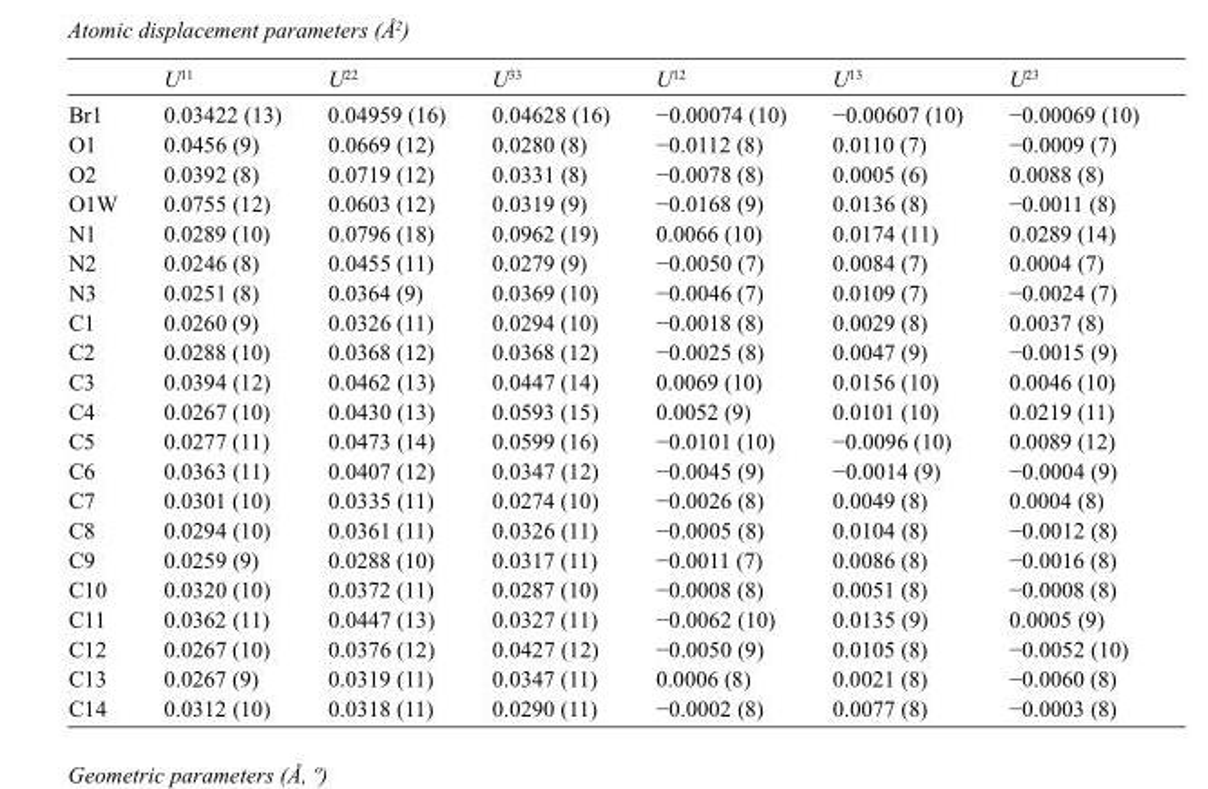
<table><thead><tr><td></td><td>U<sup>11</sup></td><td>U<sup>22</sup></td><td>U<sup>33</sup></td><td>U<sup>12</sup></td><td>U<sup>13</sup></td><td>U<sup>23</sup></td></tr></thead><tbody><tr><td>Br1</td><td>0.03422 (13)</td><td>0.04959 (16)</td><td>0.04628 (16)</td><td>−0.00074 (10)</td><td>−0.00607 (10)</td><td>−0.00069 (10)</td></tr><tr><td>O1</td><td>0.0456 (9)</td><td>0.0669 (12)</td><td>0.0280 (8)</td><td>−0.0112 (8)</td><td>0.0110 (7)</td><td>−0.0009 (7)</td></tr><tr><td>O2</td><td>0.0392 (8)</td><td>0.0719 (12)</td><td>0.0331 (8)</td><td>−0.0078 (8)</td><td>0.0005 (6)</td><td>0.0088 (8)</td></tr><tr><td>O1W</td><td>0.0755 (12)</td><td>0.0603 (12)</td><td>0.0319 (9)</td><td>−0.0168 (9)</td><td>0.0136 (8)</td><td>−0.0011 (8)</td></tr><tr><td>N1</td><td>0.0289 (10)</td><td>0.0796 (18)</td><td>0.0962 (19)</td><td>0.0066 (10)</td><td>0.0174 (11)</td><td>0.0289 (14)</td></tr><tr><td>N2</td><td>0.0246 (8)</td><td>0.0455 (11)</td><td>0.0279 (9)</td><td>−0.0050 (7)</td><td>0.0084 (7)</td><td>0.0004 (7)</td></tr><tr><td>N3</td><td>0.0251 (8)</td><td>0.0364 (9)</td><td>0.0369 (10)</td><td>−0.0046 (7)</td><td>0.0109 (7)</td><td>−0.0024 (7)</td></tr><tr><td>C1</td><td>0.0260 (9)</td><td>0.0326 (11)</td><td>0.0294 (10)</td><td>−0.0018 (8)</td><td>0.0029 (8)</td><td>0.0037 (8)</td></tr><tr><td>C2</td><td>0.0288 (10)</td><td>0.0368 (12)</td><td>0.0368 (12)</td><td>−0.0025 (8)</td><td>0.0047 (9)</td><td>−0.0015 (9)</td></tr><tr><td>C3</td><td>0.0394 (12)</td><td>0.0462 (13)</td><td>0.0447 (14)</td><td>0.0069 (10)</td><td>0.0156 (10)</td><td>0.0046 (10)</td></tr><tr><td>C4</td><td>0.0267 (10)</td><td>0.0430 (13)</td><td>0.0593 (15)</td><td>0.0052 (9)</td><td>0.0101 (10)</td><td>0.0219 (11)</td></tr><tr><td>C5</td><td>0.0277 (11)</td><td>0.0473 (14)</td><td>0.0599 (16)</td><td>−0.0101 (10)</td><td>−0.0096 (10)</td><td>0.0089 (12)</td></tr><tr><td>C6</td><td>0.0363 (11)</td><td>0.0407 (12)</td><td>0.0347 (12)</td><td>−0.0045 (9)</td><td>−0.0014 (9)</td><td>−0.0004 (9)</td></tr><tr><td>C7</td><td>0.0301 (10)</td><td>0.0335 (11)</td><td>0.0274 (10)</td><td>−0.0026 (8)</td><td>0.0049 (8)</td><td>0.0004 (8)</td></tr><tr><td>C8</td><td>0.0294 (10)</td><td>0.0361 (11)</td><td>0.0326 (11)</td><td>−0.0005 (8)</td><td>0.0104 (8)</td><td>−0.0012 (8)</td></tr><tr><td>C9</td><td>0.0259 (9)</td><td>0.0288 (10)</td><td>0.0317 (11)</td><td>−0.0011 (7)</td><td>0.0086 (8)</td><td>−0.0016 (8)</td></tr><tr><td>C10</td><td>0.0320 (10)</td><td>0.0372 (11)</td><td>0.0287 (10)</td><td>−0.0008 (8)</td><td>0.0051 (8)</td><td>−0.0008 (8)</td></tr><tr><td>C11</td><td>0.0362 (11)</td><td>0.0447 (13)</td><td>0.0327 (11)</td><td>−0.0062 (10)</td><td>0.0135 (9)</td><td>0.0005 (9)</td></tr><tr><td>C12</td><td>0.0267 (10)</td><td>0.0376 (12)</td><td>0.0427 (12)</td><td>−0.0050 (9)</td><td>0.0105 (8)</td><td>−0.0052 (10)</td></tr><tr><td>C13</td><td>0.0267 (9)</td><td>0.0319 (11)</td><td>0.0347 (11)</td><td>0.0006 (8)</td><td>0.0021 (8)</td><td>−0.0060 (8)</td></tr><tr><td>C14</td><td>0.0312 (10)</td><td>0.0318 (11)</td><td>0.0290 (11)</td><td>−0.0002 (8)</td><td>0.0077 (8)</td><td>−0.0003 (8)</td></tr></tbody></table>